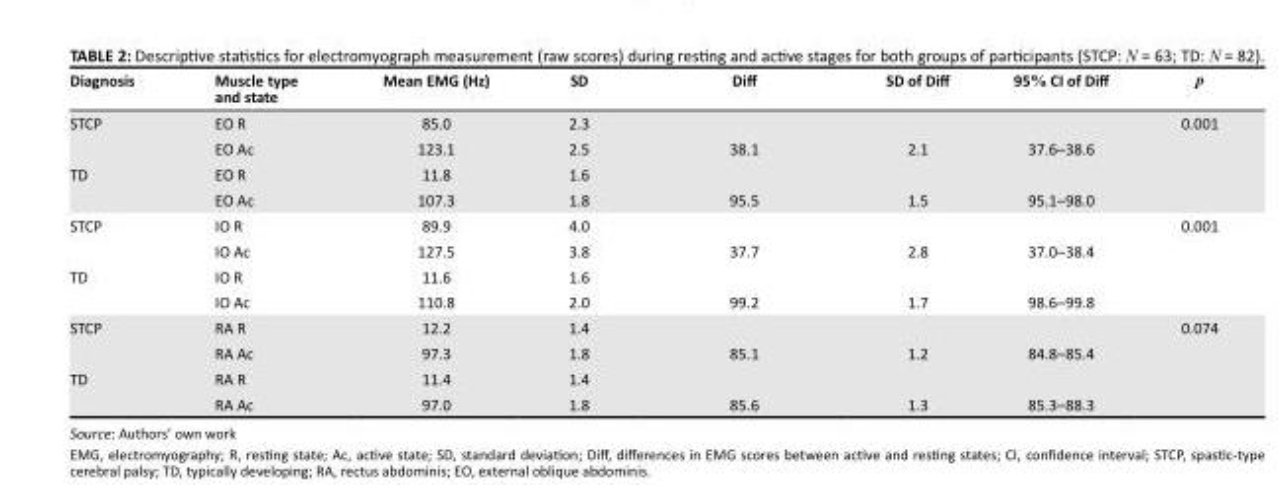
<table><thead><tr><td>Diagnosis</td><td>Muscle type and state</td><td>Mean EMG (Hz)</td><td>SD</td><td>Diff</td><td>SD of Diff</td><td>95% CI of Diff</td><td>p</td></tr></thead><tbody><tr><td rowspan="2">STCP</td><td>EO R</td><td>85.0</td><td>2.3</td><td></td><td></td><td></td><td rowspan="4">0.001</td></tr><tr><td>EO Ac</td><td>123.1</td><td>2.5</td><td>38.1</td><td>2.1</td><td>37.6–38.6</td></tr><tr><td rowspan="2">TD</td><td>EO R</td><td>11.8</td><td>1.6</td><td></td><td></td><td></td></tr><tr><td>EO Ac</td><td>107.3</td><td>1.8</td><td>95.5</td><td>1.5</td><td>95.1–98.0</td></tr><tr><td rowspan="2">STCP</td><td>IO R</td><td>89.9</td><td>4.0</td><td></td><td></td><td></td><td rowspan="4">0.001</td></tr><tr><td>IO Ac</td><td>127.5</td><td>3.8</td><td>37.7</td><td>2.8</td><td>37.0–38.4</td></tr><tr><td rowspan="2">TD</td><td>IO R</td><td>11.6</td><td>1.6</td><td></td><td></td><td></td></tr><tr><td>IO Ac</td><td>110.8</td><td>2.0</td><td>99.2</td><td>1.7</td><td>98.6–99.8</td></tr><tr><td rowspan="2">STCP</td><td>RA R</td><td>12.2</td><td>1.4</td><td></td><td></td><td></td><td rowspan="4">0.074</td></tr><tr><td>RA Ac</td><td>97.3</td><td>1.8</td><td>85.1</td><td>1.2</td><td>84.8–85.4</td></tr><tr><td rowspan="2">TD</td><td>RA R</td><td>11.4</td><td>1.4</td><td></td><td></td><td></td></tr><tr><td>RA Ac</td><td>97.0</td><td>1.8</td><td>85.6</td><td>1.3</td><td>85.3–88.3</td></tr></tbody></table>